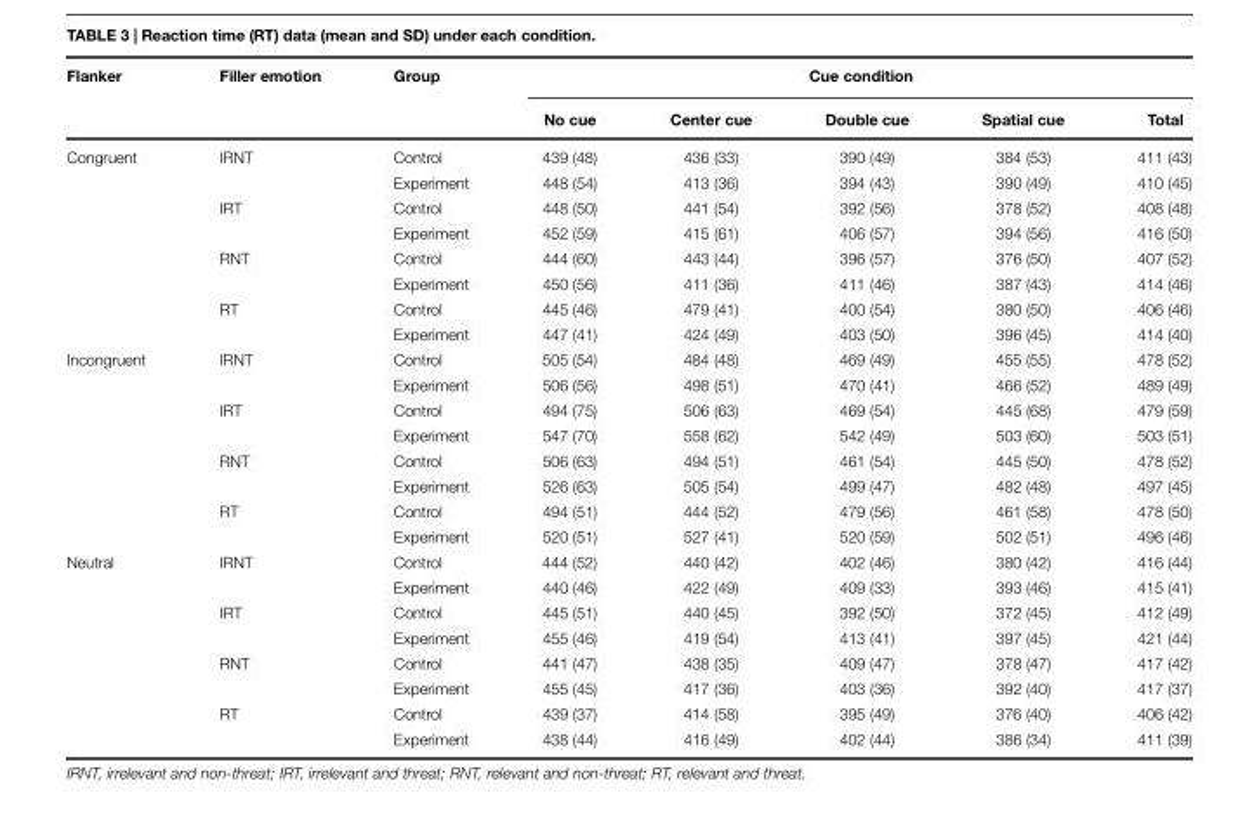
<table><thead><tr><td rowspan="2">Flanker</td><td rowspan="2">Filler emotion</td><td rowspan="2">Group</td><td colspan="5">Cue condition</td></tr><tr><td>No cue</td><td>Center cue</td><td>Double cue</td><td>Spatial cue</td><td>Total</td></tr></thead><tbody><tr><td rowspan="8">Congruent</td><td>IRNT</td><td>Control</td><td>439 (48)</td><td>436 (33)</td><td>390 (49)</td><td>384 (53)</td><td>411 (43)</td></tr><tr><td></td><td>Experiment</td><td>448 (54)</td><td>413 (36)</td><td>394 (43)</td><td>390 (49)</td><td>410 (45)</td></tr><tr><td>IRT</td><td>Control</td><td>448 (50)</td><td>441 (54)</td><td>392 (56)</td><td>378 (52)</td><td>408 (48)</td></tr><tr><td></td><td>Experiment</td><td>452 (59)</td><td>415 (61)</td><td>406 (57)</td><td>394 (56)</td><td>416 (50)</td></tr><tr><td>RNT</td><td>Control</td><td>444 (60)</td><td>443 (44)</td><td>396 (57)</td><td>376 (50)</td><td>407 (52)</td></tr><tr><td></td><td>Experiment</td><td>450 (56)</td><td>411 (36)</td><td>411 (46)</td><td>387 (43)</td><td>414 (46)</td></tr><tr><td>RT</td><td>Control</td><td>445 (46)</td><td>479 (41)</td><td>400 (54)</td><td>380 (50)</td><td>406 (46)</td></tr><tr><td></td><td>Experiment</td><td>447 (41)</td><td>424 (49)</td><td>403 (50)</td><td>396 (45)</td><td>414 (40)</td></tr><tr><td rowspan="8">Incongruent</td><td>IRNT</td><td>Control</td><td>505 (54)</td><td>484 (48)</td><td>469 (49)</td><td>455 (55)</td><td>478 (52)</td></tr><tr><td></td><td>Experiment</td><td>506 (56)</td><td>498 (51)</td><td>470 (41)</td><td>466 (52)</td><td>489 (49)</td></tr><tr><td>IRT</td><td>Control</td><td>494 (75)</td><td>506 (63)</td><td>469 (54)</td><td>445 (68)</td><td>479 (59)</td></tr><tr><td></td><td>Experiment</td><td>547 (70)</td><td>558 (62)</td><td>542 (49)</td><td>503 (60)</td><td>503 (51)</td></tr><tr><td>RNT</td><td>Control</td><td>506 (63)</td><td>494 (51)</td><td>461 (54)</td><td>445 (50)</td><td>478 (52)</td></tr><tr><td></td><td>Experiment</td><td>526 (63)</td><td>505 (54)</td><td>499 (47)</td><td>482 (48)</td><td>497 (45)</td></tr><tr><td>RT</td><td>Control</td><td>494 (51)</td><td>444 (52)</td><td>479 (56)</td><td>461 (58)</td><td>478 (50)</td></tr><tr><td></td><td>Experiment</td><td>520 (51)</td><td>527 (41)</td><td>520 (59)</td><td>502 (51)</td><td>496 (46)</td></tr><tr><td rowspan="8">Neutral</td><td>IRNT</td><td>Control</td><td>444 (52)</td><td>440 (42)</td><td>402 (46)</td><td>380 (42)</td><td>416 (44)</td></tr><tr><td></td><td>Experiment</td><td>440 (46)</td><td>422 (49)</td><td>409 (33)</td><td>393 (46)</td><td>415 (41)</td></tr><tr><td>IRT</td><td>Control</td><td>445 (51)</td><td>440 (45)</td><td>392 (50)</td><td>372 (45)</td><td>412 (49)</td></tr><tr><td></td><td>Experiment</td><td>455 (46)</td><td>419 (54)</td><td>413 (41)</td><td>397 (45)</td><td>421 (44)</td></tr><tr><td>RNT</td><td>Control</td><td>441 (47)</td><td>438 (35)</td><td>409 (47)</td><td>378 (47)</td><td>417 (42)</td></tr><tr><td></td><td>Experiment</td><td>455 (45)</td><td>417 (36)</td><td>403 (36)</td><td>392 (40)</td><td>417 (37)</td></tr><tr><td>RT</td><td>Control</td><td>439 (37)</td><td>414 (58)</td><td>395 (49)</td><td>376 (40)</td><td>406 (42)</td></tr><tr><td></td><td>Experiment</td><td>438 (44)</td><td>416 (49)</td><td>402 (44)</td><td>386 (34)</td><td>411 (39)</td></tr></tbody></table>